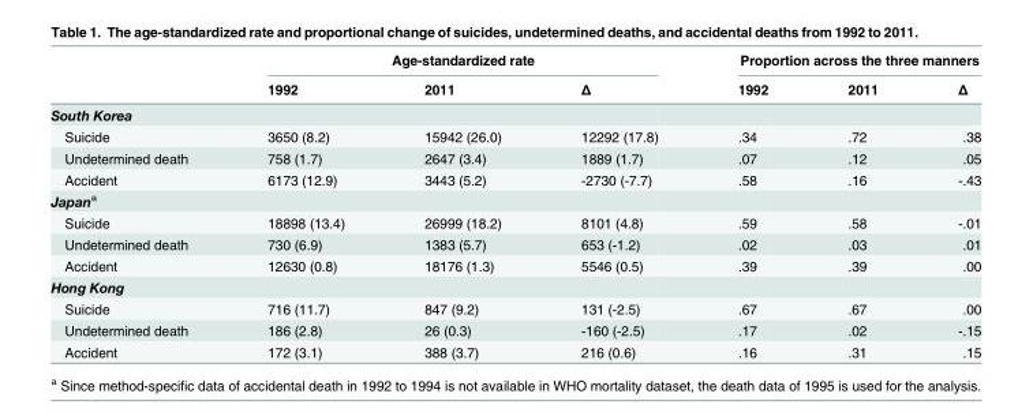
<table><thead><tr><td rowspan="2"></td><td colspan="3">Age-standardized rate</td><td colspan="3">Proportion across the three manners</td></tr><tr><td>1992</td><td>2011</td><td>Δ</td><td>1992</td><td>2011</td><td>Δ</td></tr></thead><tbody><tr><td colspan="7">South Korea</td></tr><tr><td>Suicide</td><td>3650 (8.2)</td><td>15942 (26.0)</td><td>12292 (17.8)</td><td>.34</td><td>.72</td><td>.38</td></tr><tr><td>Undetermined death</td><td>758 (1.7)</td><td>2647 (3.4)</td><td>1889 (1.7)</td><td>.07</td><td>.12</td><td>.05</td></tr><tr><td>Accident</td><td>6173 (12.9)</td><td>3443 (5.2)</td><td>-2730 (-7.7)</td><td>.58</td><td>.16</td><td>-.43</td></tr><tr><td colspan="7">Japan<sup>a</sup></td></tr><tr><td>Suicide</td><td>18898 (13.4)</td><td>26999 (18.2)</td><td>8101 (4.8)</td><td>.59</td><td>.58</td><td>-.01</td></tr><tr><td>Undetermined death</td><td>730 (6.9)</td><td>1383 (5.7)</td><td>653 (-1.2)</td><td>.02</td><td>.03</td><td>.01</td></tr><tr><td>Accident</td><td>12630 (0.8)</td><td>18176 (1.3)</td><td>5546 (0.5)</td><td>.39</td><td>.39</td><td>.00</td></tr><tr><td colspan="7">Hong Kong</td></tr><tr><td>Suicide</td><td>716 (11.7)</td><td>847 (9.2)</td><td>131 (-2.5)</td><td>.67</td><td>.67</td><td>.00</td></tr><tr><td>Undetermined death</td><td>186 (2.8)</td><td>26 (0.3)</td><td>-160 (-2.5)</td><td>.17</td><td>.02</td><td>-.15</td></tr><tr><td>Accident</td><td>172 (3.1)</td><td>388 (3.7)</td><td>216 (0.6)</td><td>.16</td><td>.31</td><td>.15</td></tr></tbody></table>